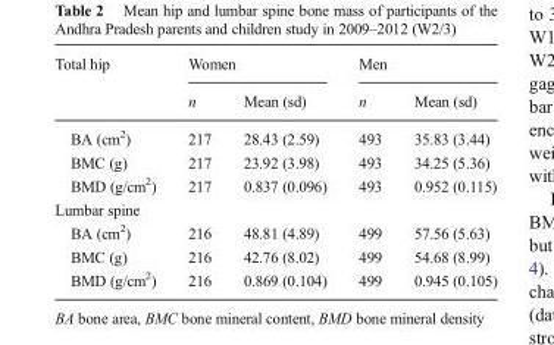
<table><thead><tr><td rowspan="2">Total hip</td><td colspan="2">Women</td><td colspan="2">Men</td></tr><tr><td>n</td><td>Mean (sd)</td><td>n</td><td>Mean (sd)</td></tr></thead><tbody><tr><td>BA (cm<sup>2</sup>)</td><td>217</td><td>28.43 (2.59)</td><td>493</td><td>35.83 (3.44)</td></tr><tr><td>BMC (g)</td><td>217</td><td>23.92 (3.98)</td><td>493</td><td>34.25 (5.36)</td></tr><tr><td>BMD (g/cm<sup>2</sup>)</td><td>217</td><td>0.837 (0.096)</td><td>493</td><td>0.952 (0.115)</td></tr><tr><td colspan="5">Lumbar spine</td></tr><tr><td>BA (cm<sup>2</sup>)</td><td>216</td><td>48.81 (4.89)</td><td>499</td><td>57.56 (5.63)</td></tr><tr><td>BMC (g)</td><td>216</td><td>42.76 (8.02)</td><td>499</td><td>54.68 (8.99)</td></tr><tr><td>BMD (g/cm<sup>2</sup>)</td><td>216</td><td>0.869 (0.104)</td><td>499</td><td>0.945 (0.105)</td></tr></tbody></table>